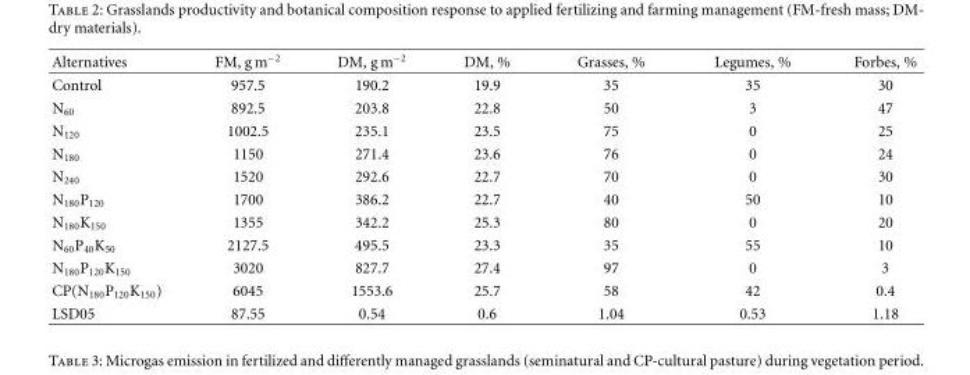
<table><thead><tr><td>Alternatives</td><td>FM, g m<sup>−2</sup></td><td>DM, g m<sup>−2</sup></td><td>DM, %</td><td>Grasses, %</td><td>Legumes, %</td><td>Forbes, %</td></tr></thead><tbody><tr><td>Control</td><td>957.5</td><td>190.2</td><td>19.9</td><td>35</td><td>35</td><td>30</td></tr><tr><td>N<sub>60</sub></td><td>892.5</td><td>203.8</td><td>22.8</td><td>50</td><td>3</td><td>47</td></tr><tr><td>N<sub>120</sub></td><td>1002.5</td><td>235.1</td><td>23.5</td><td>75</td><td>0</td><td>25</td></tr><tr><td>N<sub>180</sub></td><td>1150</td><td>271.4</td><td>23.6</td><td>76</td><td>0</td><td>24</td></tr><tr><td>N<sub>240</sub></td><td>1520</td><td>292.6</td><td>22.7</td><td>70</td><td>0</td><td>30</td></tr><tr><td>N<sub>180</sub>P<sub>120</sub></td><td>1700</td><td>386.2</td><td>22.7</td><td>40</td><td>50</td><td>10</td></tr><tr><td>N<sub>180</sub>K<sub>150</sub></td><td>1355</td><td>342.2</td><td>25.3</td><td>80</td><td>0</td><td>20</td></tr><tr><td>N<sub>60</sub>P<sub>40</sub>K<sub>50</sub></td><td>2127.5</td><td>495.5</td><td>23.3</td><td>35</td><td>55</td><td>10</td></tr><tr><td>N<sub>180</sub>P<sub>120</sub>K<sub>150</sub></td><td>3020</td><td>827.7</td><td>27.4</td><td>97</td><td>0</td><td>3</td></tr><tr><td>CP(N<sub>180</sub>P<sub>120</sub>K<sub>150</sub>)</td><td>6045</td><td>1553.6</td><td>25.7</td><td>58</td><td>42</td><td>0.4</td></tr><tr><td>LSD05</td><td>87.55</td><td>0.54</td><td>0.6</td><td>1.04</td><td>0.53</td><td>1.18</td></tr></tbody></table>